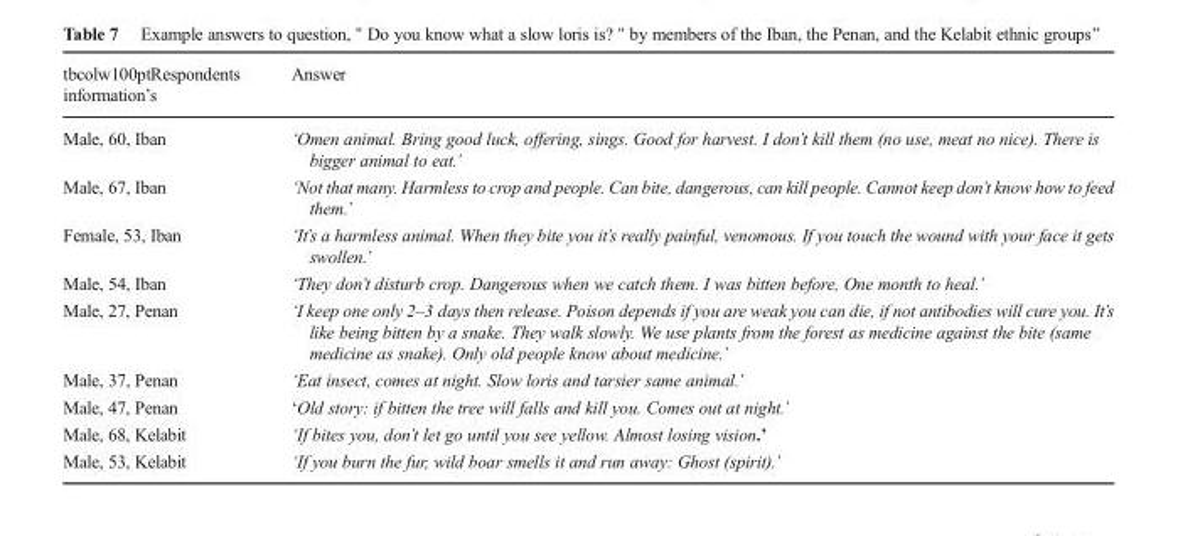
<table><thead><tr><td>tbcolw100ptRespondents information’s</td><td>Answer</td></tr></thead><tbody><tr><td>Male, 60, Iban</td><td>‘Omen animal. Bring good luck, offering, sings. Good for harvest. I don’t kill them (no use, meat no nice). There is bigger animal to eat.’</td></tr><tr><td>Male, 67, Iban</td><td>‘Not that many. Harmless to crop and people. Can bite, dangerous, can kill people. Cannot keep don’t know how to feed them.’</td></tr><tr><td>Female, 53, Iban</td><td>‘It’s a harmless animal. When they bite you it’s really painful, venomous. If you touch the wound with your face it gets swollen.’</td></tr><tr><td>Male, 54, Iban</td><td>‘They don’t disturb crop. Dangerous when we catch them. I was bitten before, One month to heal.’</td></tr><tr><td>Male, 27, Penan</td><td>‘I keep one only 2–3 days then release. Poison depends if you are weak you can die, if not antibodies will cure you. It’s like being bitten by a snake. They walk slowly. We use plants from the forest as medicine against the bite (same medicine as snake). Only old people know about medicine.’</td></tr><tr><td>Male, 37, Penan</td><td>‘Eat insect, comes at night. Slow loris and tarsier same animal.’</td></tr><tr><td>Male, 47, Penan</td><td>‘Old story: if bitten the tree will falls and kill you. Comes out at night.’</td></tr><tr><td>Male, 68, Kelabit</td><td>‘If bites you, don’t let go until you see yellow. Almost losing vision.’</td></tr><tr><td>Male, 53, Kelabit</td><td>‘If you burn the fur, wild boar smells it and run away: Ghost (spirit).’</td></tr></tbody></table>